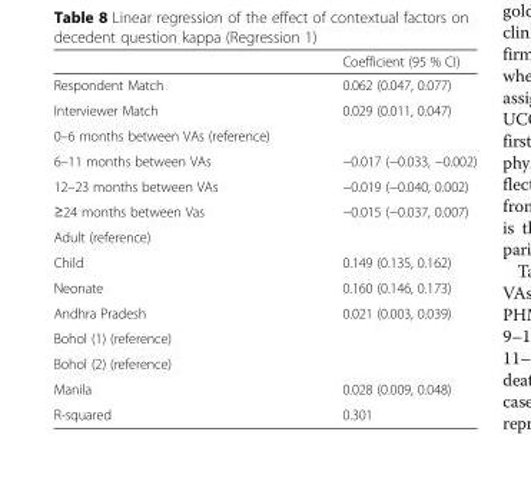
<table><thead><tr><td></td><td>Coefficient (95 % CI)</td></tr></thead><tbody><tr><td>Respondent Match</td><td>0.062 (0.047, 0.077)</td></tr><tr><td>Interviewer Match</td><td>0.029 (0.011, 0.047)</td></tr><tr><td colspan="2">0–6 months between VAs (reference)</td></tr><tr><td>6–11 months between VAs</td><td>−0.017 (−0.033, −0.002)</td></tr><tr><td>12–23 months between VAs</td><td>−0.019 (−0.040, 0.002)</td></tr><tr><td>≥24 months between Vas</td><td>−0.015 (−0.037, 0.007)</td></tr><tr><td colspan="2">Adult (reference)</td></tr><tr><td>Child</td><td>0.149 (0.135, 0.162)</td></tr><tr><td>Neonate</td><td>0.160 (0.146, 0.173)</td></tr><tr><td>Andhra Pradesh</td><td>0.021 (0.003, 0.039)</td></tr><tr><td colspan="2">Bohol (1) (reference)</td></tr><tr><td colspan="2">Bohol (2) (reference)</td></tr><tr><td>Manila</td><td>0.028 (0.009, 0.048)</td></tr><tr><td>R-squared</td><td>0.301</td></tr></tbody></table>